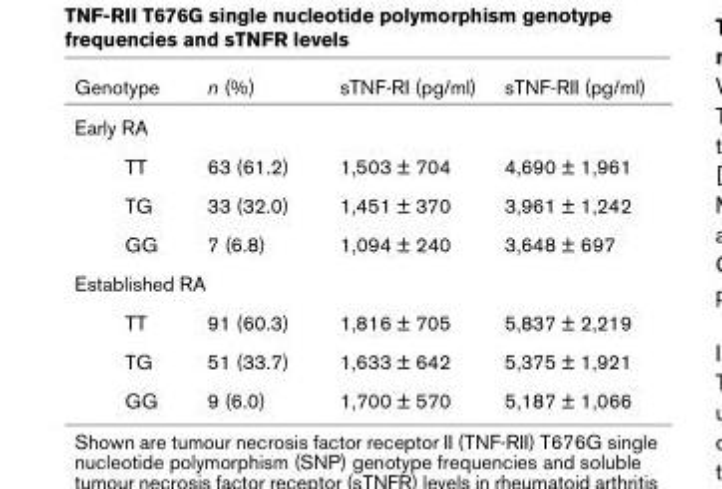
<table><thead><tr><td>Genotype</td><td>n (%)</td><td>sTNF-RI (pg/ml)</td><td>sTNF-RII (pg/ml)</td></tr></thead><tbody><tr><td colspan="4">Early RA</td></tr><tr><td>TT</td><td>63 (61.2)</td><td>1,503 ± 704</td><td>4,690 ± 1,961</td></tr><tr><td>TG</td><td>33 (32.0)</td><td>1,451 ± 370</td><td>3,961 ± 1,242</td></tr><tr><td>GG</td><td>7 (6.8)</td><td>1,094 ± 240</td><td>3,648 ± 697</td></tr><tr><td colspan="4">Established RA</td></tr><tr><td>TT</td><td>91 (60.3)</td><td>1,816 ± 705</td><td>5,837 ± 2,219</td></tr><tr><td>TG</td><td>51 (33.7)</td><td>1,633 ± 642</td><td>5,375 ± 1,921</td></tr><tr><td>GG</td><td>9 (6.0)</td><td>1,700 ± 570</td><td>5,187 ± 1,066</td></tr></tbody></table>